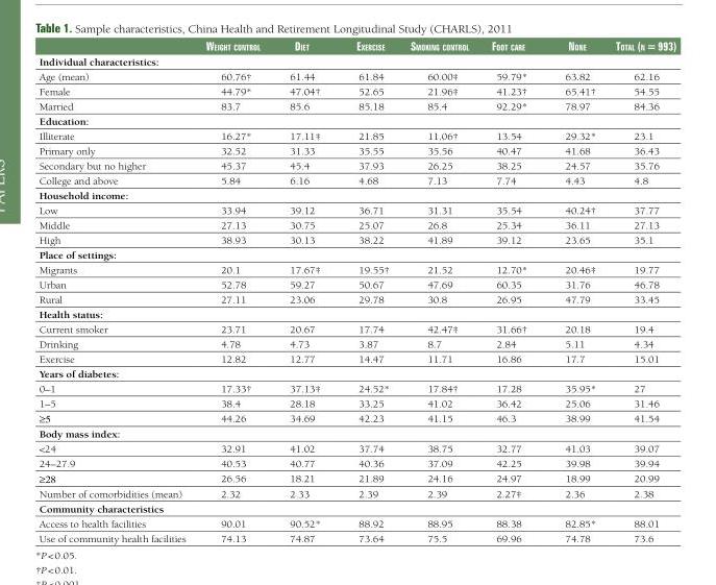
<table><thead><tr><td></td><td>Weight control</td><td>Diet</td><td>exercise</td><td>smoking control</td><td>Foot care</td><td>none</td><td>total (n = 993)</td></tr></thead><tbody><tr><td colspan="8">Individual characteristics:</td></tr><tr><td>Age (mean)</td><td>60.76†</td><td>61.44</td><td>61.84</td><td>60.00‡</td><td>59.79*</td><td>63.82</td><td>62.16</td></tr><tr><td>Female</td><td>44.79*</td><td>47.04†</td><td>52.65</td><td>21.96‡</td><td>41.23†</td><td>65.41†</td><td>54.55</td></tr><tr><td>Married</td><td>83.7</td><td>85.6</td><td>85.18</td><td>85.4</td><td>92.29*</td><td>78.97</td><td>84.36</td></tr><tr><td colspan="8">Education:</td></tr><tr><td>Illiterate</td><td>16.27*</td><td>17.11‡</td><td>21.85</td><td>11.06†</td><td>13.54</td><td>29.32*</td><td>23.1</td></tr><tr><td>Primary only</td><td>32.52</td><td>31.33</td><td>35.55</td><td>35.56</td><td>40.47</td><td>41.68</td><td>36.43</td></tr><tr><td>Secondary but no higher</td><td>45.37</td><td>45.4</td><td>37.93</td><td>26.25</td><td>38.25</td><td>24.57</td><td>35.76</td></tr><tr><td>College and above</td><td>5.84</td><td>6.16</td><td>4.68</td><td>7.13</td><td>7.74</td><td>4.43</td><td>4.8</td></tr><tr><td colspan="8">Household income:</td></tr><tr><td>Low</td><td>33.94</td><td>39.12</td><td>36.71</td><td>31.31</td><td>35.54</td><td>40.24†</td><td>37.77</td></tr><tr><td>Middle</td><td>27.13</td><td>30.75</td><td>25.07</td><td>26.8</td><td>25.34</td><td>36.11</td><td>27.13</td></tr><tr><td>High</td><td>38.93</td><td>30.13</td><td>38.22</td><td>41.89</td><td>39.12</td><td>23.65</td><td>35.1</td></tr><tr><td colspan="8">Place of settings:</td></tr><tr><td>Migrants</td><td>20.1</td><td>17.67‡</td><td>19.55†</td><td>21.52</td><td>12.70*</td><td>20.46‡</td><td>19.77</td></tr><tr><td>Urban</td><td>52.78</td><td>59.27</td><td>50.67</td><td>47.69</td><td>60.35</td><td>31.76</td><td>46.78</td></tr><tr><td>Rural</td><td>27.11</td><td>23.06</td><td>29.78</td><td>30.8</td><td>26.95</td><td>47.79</td><td>33.45</td></tr><tr><td colspan="8">Health status:</td></tr><tr><td>Current smoker</td><td>23.71</td><td>20.67</td><td>17.74</td><td>42.47‡</td><td>31.66†</td><td>20.18</td><td>19.4</td></tr><tr><td>Drinking</td><td>4.78</td><td>4.73</td><td>3.87</td><td>8.7</td><td>2.84</td><td>5.11</td><td>4.34</td></tr><tr><td>Exercise</td><td>12.82</td><td>12.77</td><td>14.47</td><td>11.71</td><td>16.86</td><td>17.7</td><td>15.01</td></tr><tr><td colspan="8">Years of diabetes:</td></tr><tr><td>0–1</td><td>17.33†</td><td>37.13‡</td><td>24.52*</td><td>17.84†</td><td>17.28</td><td>35.95*</td><td>27</td></tr><tr><td>1–5</td><td>38.4</td><td>28.18</td><td>33.25</td><td>41.02</td><td>36.42</td><td>25.06</td><td>31.46</td></tr><tr><td>≥5</td><td>44.26</td><td>34.69</td><td>42.23</td><td>41.15</td><td>46.3</td><td>38.99</td><td>41.54</td></tr><tr><td colspan="8">Body mass index:</td></tr><tr><td>&lt;24</td><td>32.91</td><td>41.02</td><td>37.74</td><td>38.75</td><td>32.77</td><td>41.03</td><td>39.07</td></tr><tr><td>24–27.9</td><td>40.53</td><td>40.77</td><td>40.36</td><td>37.09</td><td>42.25</td><td>39.98</td><td>39.94</td></tr><tr><td>≥28</td><td>26.56</td><td>18.21</td><td>21.89</td><td>24.16</td><td>24.97</td><td>18.99</td><td>20.99</td></tr><tr><td>Number of comorbidities (mean)</td><td>2.32</td><td>2.33</td><td>2.39</td><td>2.39</td><td>2.27‡</td><td>2.36</td><td>2.38</td></tr><tr><td colspan="8">Community characteristics</td></tr><tr><td>Access to health facilities</td><td>90.01</td><td>90.52*</td><td>88.92</td><td>88.95</td><td>88.38</td><td>82.85*</td><td>88.01</td></tr><tr><td>Use of community health facilities</td><td>74.13</td><td>74.87</td><td>73.64</td><td>75.5</td><td>69.96</td><td>74.78</td><td>73.6</td></tr></tbody></table>